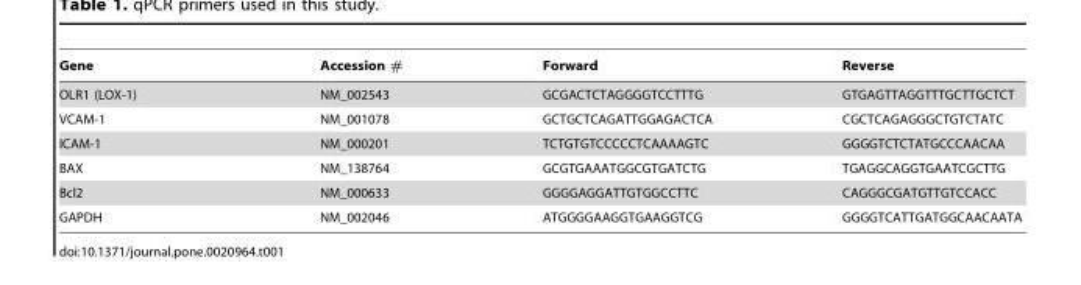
<table><thead><tr><td>Gene</td><td>Accession #</td><td>Forward</td><td>Reverse</td></tr></thead><tbody><tr><td>OLR1 (LOX-1)</td><td>NM_002543</td><td>GCGACTCTAGGGGTCCTTTG</td><td>GTGAGTTAGGTTTGCTTGCTCT</td></tr><tr><td>VCAM-1</td><td>NM_001078</td><td>GCTGCTCAGATTGGAGACTCA</td><td>CGCTCAGAGGGCTGTCTATC</td></tr><tr><td>ICAM-1</td><td>NM_000201</td><td>TCTGTGTCCCCCTCAAAAGTC</td><td>GGGGTCTCTATGCCCAACAA</td></tr><tr><td>BAX</td><td>NM_138764</td><td>GCGTGAAATGGCGTGATCTG</td><td>TGAGGCAGGTGAATCGCTTG</td></tr><tr><td>Bcl2</td><td>NM_000633</td><td>GGGGAGGATTGTGGCCTTC</td><td>CAGGGCGATGTTGTCCACC</td></tr><tr><td>GAPDH</td><td>NM_002046</td><td>ATGGGGAAGGTGAAGGTCG</td><td>GGGGTCATTGATGGCAACAATA</td></tr></tbody></table>